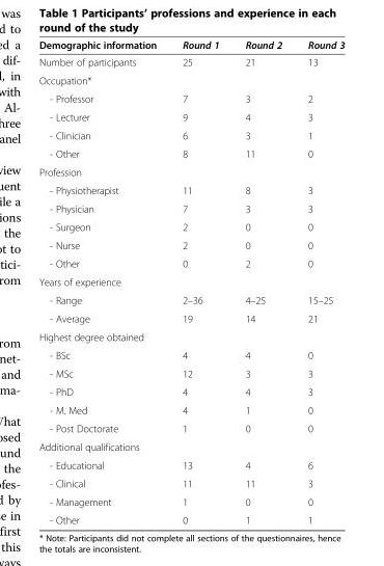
<table><thead><tr><td>Demographic information</td><td>Round 1</td><td>Round 2</td><td>Round 3</td></tr></thead><tbody><tr><td>Number of participants</td><td>25</td><td>21</td><td>13</td></tr><tr><td colspan="4">Occupation*</td></tr><tr><td>- Professor</td><td>7</td><td>3</td><td>2</td></tr><tr><td>- Lecturer</td><td>9</td><td>4</td><td>3</td></tr><tr><td>- Clinician</td><td>6</td><td>3</td><td>1</td></tr><tr><td>- Other</td><td>8</td><td>11</td><td>0</td></tr><tr><td colspan="4">Profession</td></tr><tr><td>- Physiotherapist</td><td>11</td><td>8</td><td>3</td></tr><tr><td>- Physician</td><td>7</td><td>3</td><td>3</td></tr><tr><td>- Surgeon</td><td>2</td><td>0</td><td>0</td></tr><tr><td>- Nurse</td><td>2</td><td>0</td><td>0</td></tr><tr><td>- Other</td><td>0</td><td>2</td><td>0</td></tr><tr><td colspan="4">Years of experience</td></tr><tr><td>- Range</td><td>2–36</td><td>4–25</td><td>15–25</td></tr><tr><td>- Average</td><td>19</td><td>14</td><td>21</td></tr><tr><td colspan="4">Highest degree obtained</td></tr><tr><td>- BSc</td><td>4</td><td>4</td><td>0</td></tr><tr><td>- MSc</td><td>12</td><td>3</td><td>3</td></tr><tr><td>- PhD</td><td>4</td><td>4</td><td>3</td></tr><tr><td>- M. Med</td><td>4</td><td>1</td><td>0</td></tr><tr><td>- Post Doctorate</td><td>1</td><td>0</td><td>0</td></tr><tr><td colspan="4">Additional qualifications</td></tr><tr><td>- Educational</td><td>13</td><td>4</td><td>6</td></tr><tr><td>- Clinical</td><td>11</td><td>11</td><td>3</td></tr><tr><td>- Management</td><td>1</td><td>0</td><td>0</td></tr><tr><td>- Other</td><td>0</td><td>1</td><td>1</td></tr></tbody></table>